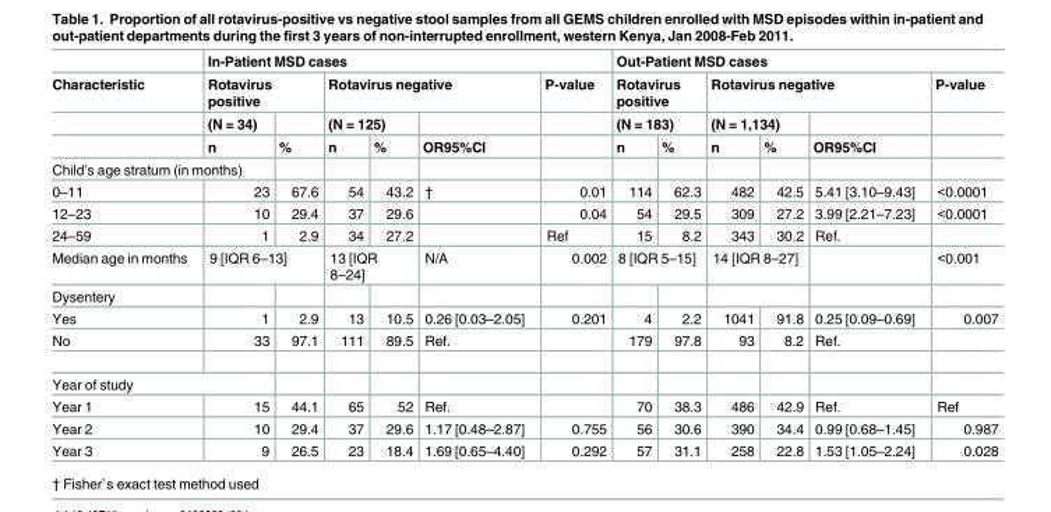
<table><thead><tr><td rowspan="4">Characteristic</td><td colspan="6">In-Patient MSD cases</td><td colspan="6">Out-Patient MSD cases</td></tr><tr><td colspan="2">Rotavirus positive</td><td colspan="3">Rotavirus negative</td><td rowspan="3">P-value</td><td rowspan="2" colspan="2">Rotavirus positive (N = 183)</td><td colspan="3">Rotavirus negative</td><td rowspan="3">P-value</td></tr><tr><td rowspan="2">(N = 34) n</td><td rowspan="2">%</td><td colspan="2">(N = 125)</td><td rowspan="2">OR95%CI</td><td colspan="2">(N = 1,134)</td><td rowspan="2">OR95%CI</td></tr><tr><td>n</td><td>%</td><td>n</td><td>%</td><td>n</td><td>%</td></tr></thead><tbody><tr><td colspan="13">Child’s age stratum (in months)</td></tr><tr><td>0–11</td><td>23</td><td>67.6</td><td>54</td><td>43.2</td><td>†</td><td>0.01</td><td>114</td><td>62.3</td><td>482</td><td>42.5</td><td>5.41 [3.10–9.43]</td><td>&lt;0.0001</td></tr><tr><td>12–23</td><td>10</td><td>29.4</td><td>37</td><td>29.6</td><td></td><td>0.04</td><td>54</td><td>29.5</td><td>309</td><td>27.2</td><td>3.99 [2.21–7.23]</td><td>&lt;0.0001</td></tr><tr><td>24–59</td><td>1</td><td>2.9</td><td>34</td><td>27.2</td><td></td><td>Ref</td><td>15</td><td>8.2</td><td>343</td><td>30.2</td><td>Ref.</td><td></td></tr><tr><td>Median age in months</td><td colspan="2">9 [IQR 6–13]</td><td colspan="2">13 [IQR 8–24]</td><td>N/A</td><td>0.002</td><td colspan="2">8 [IQR 5–15]</td><td colspan="2">14 [IQR 8–27]</td><td></td><td>&lt;0.001</td></tr><tr><td colspan="13">Dysentery</td></tr><tr><td>Yes</td><td>1</td><td>2.9</td><td>13</td><td>10.5</td><td>0.26 [0.03–2.05]</td><td>0.201</td><td>4</td><td>2.2</td><td>1041</td><td>91.8</td><td>0.25 [0.09–0.69]</td><td>0.007</td></tr><tr><td>No</td><td>33</td><td>97.1</td><td>111</td><td>89.5</td><td>Ref.</td><td></td><td>179</td><td>97.8</td><td>93</td><td>8.2</td><td>Ref.</td><td></td></tr><tr><td colspan="13">Year of study</td></tr><tr><td>Year 1</td><td>15</td><td>44.1</td><td>65</td><td>52</td><td>Ref.</td><td></td><td>70</td><td>38.3</td><td>486</td><td>42.9</td><td>Ref.</td><td>Ref</td></tr><tr><td>Year 2</td><td>10</td><td>29.4</td><td>37</td><td>29.6</td><td>1.17 [0.48–2.87]</td><td>0.755</td><td>56</td><td>30.6</td><td>390</td><td>34.4</td><td>0.99 [0.68–1.45]</td><td>0.987</td></tr><tr><td>Year 3</td><td>9</td><td>26.5</td><td>23</td><td>18.4</td><td>1.69 [0.65–4.40]</td><td>0.292</td><td>57</td><td>31.1</td><td>258</td><td>22.8</td><td>1.53 [1.05–2.24]</td><td>0.028</td></tr></tbody></table>